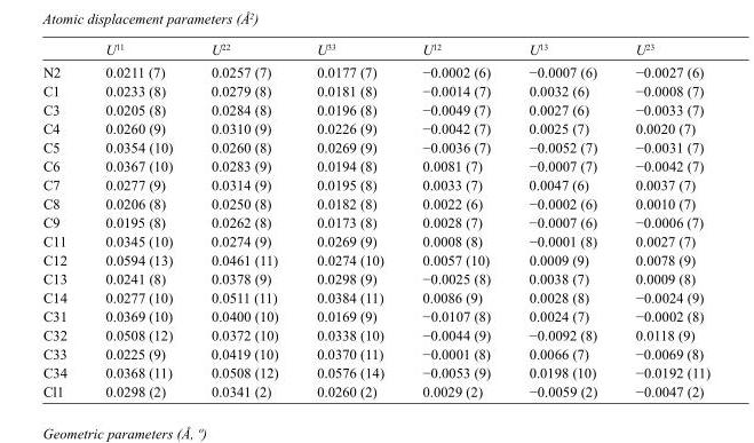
<table><thead><tr><td></td><td>U<sup>11</sup></td><td>U<sup>22</sup></td><td>U<sup>33</sup></td><td>U<sup>12</sup></td><td>U<sup>13</sup></td><td>U<sup>23</sup></td></tr></thead><tbody><tr><td>N2</td><td>0.0211 (7)</td><td>0.0257 (7)</td><td>0.0177 (7)</td><td>−0.0002 (6)</td><td>−0.0007 (6)</td><td>−0.0027 (6)</td></tr><tr><td>C1</td><td>0.0233 (8)</td><td>0.0279 (8)</td><td>0.0181 (8)</td><td>−0.0014 (7)</td><td>0.0032 (6)</td><td>−0.0008 (7)</td></tr><tr><td>C3</td><td>0.0205 (8)</td><td>0.0284 (8)</td><td>0.0196 (8)</td><td>−0.0049 (7)</td><td>0.0027 (6)</td><td>−0.0033 (7)</td></tr><tr><td>C4</td><td>0.0260 (9)</td><td>0.0310 (9)</td><td>0.0226 (9)</td><td>−0.0042 (7)</td><td>0.0025 (7)</td><td>0.0020 (7)</td></tr><tr><td>C5</td><td>0.0354 (10)</td><td>0.0260 (8)</td><td>0.0269 (9)</td><td>−0.0036 (7)</td><td>−0.0052 (7)</td><td>−0.0031 (7)</td></tr><tr><td>C6</td><td>0.0367 (10)</td><td>0.0283 (9)</td><td>0.0194 (8)</td><td>0.0081 (7)</td><td>−0.0007 (7)</td><td>−0.0042 (7)</td></tr><tr><td>C7</td><td>0.0277 (9)</td><td>0.0314 (9)</td><td>0.0195 (8)</td><td>0.0033 (7)</td><td>0.0047 (6)</td><td>0.0037 (7)</td></tr><tr><td>C8</td><td>0.0206 (8)</td><td>0.0250 (8)</td><td>0.0182 (8)</td><td>0.0022 (6)</td><td>−0.0002 (6)</td><td>0.0010 (7)</td></tr><tr><td>C9</td><td>0.0195 (8)</td><td>0.0262 (8)</td><td>0.0173 (8)</td><td>0.0028 (7)</td><td>−0.0007 (6)</td><td>−0.0006 (7)</td></tr><tr><td>C11</td><td>0.0345 (10)</td><td>0.0274 (9)</td><td>0.0269 (9)</td><td>0.0008 (8)</td><td>−0.0001 (8)</td><td>0.0027 (7)</td></tr><tr><td>C12</td><td>0.0594 (13)</td><td>0.0461 (11)</td><td>0.0274 (10)</td><td>0.0057 (10)</td><td>0.0009 (9)</td><td>0.0078 (9)</td></tr><tr><td>C13</td><td>0.0241 (8)</td><td>0.0378 (9)</td><td>0.0298 (9)</td><td>−0.0025 (8)</td><td>0.0038 (7)</td><td>0.0009 (8)</td></tr><tr><td>C14</td><td>0.0277 (10)</td><td>0.0511 (11)</td><td>0.0384 (11)</td><td>0.0086 (9)</td><td>0.0028 (8)</td><td>−0.0024 (9)</td></tr><tr><td>C31</td><td>0.0369 (10)</td><td>0.0400 (10)</td><td>0.0169 (9)</td><td>−0.0107 (8)</td><td>0.0024 (7)</td><td>−0.0002 (8)</td></tr><tr><td>C32</td><td>0.0508 (12)</td><td>0.0372 (10)</td><td>0.0338 (10)</td><td>−0.0044 (9)</td><td>−0.0092 (8)</td><td>0.0118 (9)</td></tr><tr><td>C33</td><td>0.0225 (9)</td><td>0.0419 (10)</td><td>0.0370 (11)</td><td>−0.0001 (8)</td><td>0.0066 (7)</td><td>−0.0069 (8)</td></tr><tr><td>C34</td><td>0.0368 (11)</td><td>0.0508 (12)</td><td>0.0576 (14)</td><td>−0.0053 (9)</td><td>0.0198 (10)</td><td>−0.0192 (11)</td></tr><tr><td>Cl1</td><td>0.0298 (2)</td><td>0.0341 (2)</td><td>0.0260 (2)</td><td>0.0029 (2)</td><td>−0.0059 (2)</td><td>−0.0047 (2)</td></tr></tbody></table>